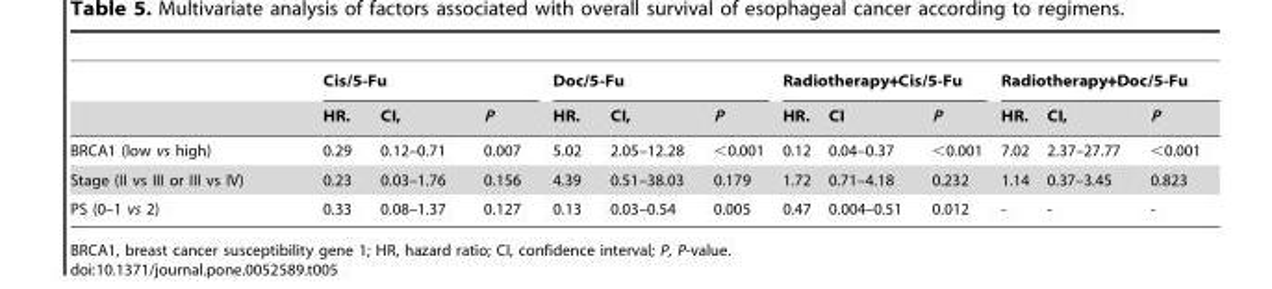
<table><thead><tr><td rowspan="2"></td><td colspan="3">Cis/5-Fu</td><td colspan="3">Doc/5-Fu</td><td colspan="3">Radiotherapy+Cis/5-Fu</td><td colspan="3">Radiotherapy+Doc/5-Fu</td></tr><tr><td>HR.</td><td>CI,</td><td>P</td><td>HR.</td><td>CI,</td><td>P</td><td>HR.</td><td>CI</td><td>P</td><td>HR.</td><td>CI,</td><td>P</td></tr></thead><tbody><tr><td>BRCA1 (low vs high)</td><td>0.29</td><td>0.12–0.71</td><td>0.007</td><td>5.02</td><td>2.05–12.28</td><td>&lt;0.001</td><td>0.12</td><td>0.04–0.37</td><td>&lt;0.001</td><td>7.02</td><td>2.37–27.77</td><td>&lt;0.001</td></tr><tr><td>Stage (II vs III or III vs IV)</td><td>0.23</td><td>0.03–1.76</td><td>0.156</td><td>4.39</td><td>0.51–38.03</td><td>0.179</td><td>1.72</td><td>0.71–4.18</td><td>0.232</td><td>1.14</td><td>0.37–3.45</td><td>0.823</td></tr><tr><td>PS (0–1 vs 2)</td><td>0.33</td><td>0.08–1.37</td><td>0.127</td><td>0.13</td><td>0.03–0.54</td><td>0.005</td><td>0.47</td><td>0.004–0.51</td><td>0.012</td><td>-</td><td>-</td><td>-</td></tr></tbody></table>